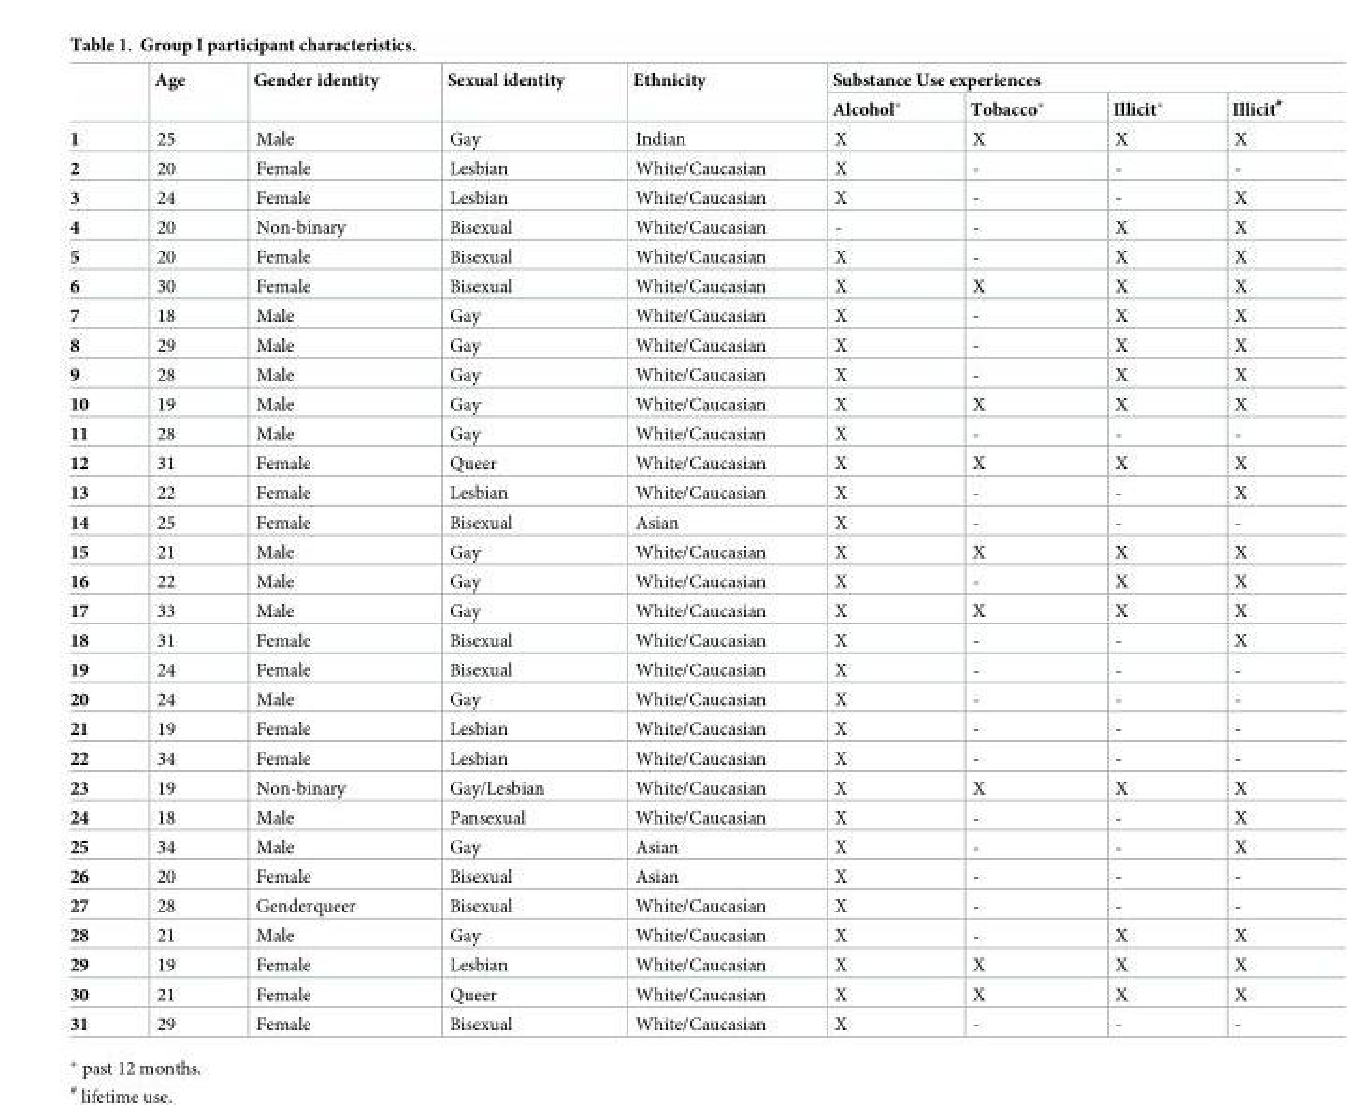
<table><thead><tr><td rowspan="2"></td><td rowspan="2">Age</td><td rowspan="2">Gender identity</td><td rowspan="2">Sexual identity</td><td rowspan="2">Ethnicity</td><td colspan="4">Substance Use experiences</td></tr><tr><td>Alcohol*</td><td>Tobacco*</td><td>Illicit*</td><td>Illicit<sup>#</sup></td></tr></thead><tbody><tr><td>1</td><td>25</td><td>Male</td><td>Gay</td><td>Indian</td><td>X</td><td>X</td><td>X</td><td>X</td></tr><tr><td>2</td><td>20</td><td>Female</td><td>Lesbian</td><td>White/Caucasian</td><td>X</td><td>-</td><td>-</td><td>-</td></tr><tr><td>3</td><td>24</td><td>Female</td><td>Lesbian</td><td>White/Caucasian</td><td>X</td><td>-</td><td>-</td><td>X</td></tr><tr><td>4</td><td>20</td><td>Non-binary</td><td>Bisexual</td><td>White/Caucasian</td><td>-</td><td>-</td><td>X</td><td>X</td></tr><tr><td>5</td><td>20</td><td>Female</td><td>Bisexual</td><td>White/Caucasian</td><td>X</td><td>-</td><td>X</td><td>X</td></tr><tr><td>6</td><td>30</td><td>Female</td><td>Bisexual</td><td>White/Caucasian</td><td>X</td><td>X</td><td>X</td><td>X</td></tr><tr><td>7</td><td>18</td><td>Male</td><td>Gay</td><td>White/Caucasian</td><td>X</td><td>-</td><td>X</td><td>X</td></tr><tr><td>8</td><td>29</td><td>Male</td><td>Gay</td><td>White/Caucasian</td><td>X</td><td>-</td><td>X</td><td>X</td></tr><tr><td>9</td><td>28</td><td>Male</td><td>Gay</td><td>White/Caucasian</td><td>X</td><td>-</td><td>X</td><td>X</td></tr><tr><td>10</td><td>19</td><td>Male</td><td>Gay</td><td>White/Caucasian</td><td>X</td><td>X</td><td>X</td><td>X</td></tr><tr><td>11</td><td>28</td><td>Male</td><td>Gay</td><td>White/Caucasian</td><td>X</td><td>-</td><td>-</td><td>-</td></tr><tr><td>12</td><td>31</td><td>Female</td><td>Queer</td><td>White/Caucasian</td><td>X</td><td>X</td><td>X</td><td>X</td></tr><tr><td>13</td><td>22</td><td>Female</td><td>Lesbian</td><td>White/Caucasian</td><td>X</td><td>-</td><td>-</td><td>X</td></tr><tr><td>14</td><td>25</td><td>Female</td><td>Bisexual</td><td>Asian</td><td>X</td><td>-</td><td>-</td><td>-</td></tr><tr><td>15</td><td>21</td><td>Male</td><td>Gay</td><td>White/Caucasian</td><td>X</td><td>X</td><td>X</td><td>X</td></tr><tr><td>16</td><td>22</td><td>Male</td><td>Gay</td><td>White/Caucasian</td><td>X</td><td>-</td><td>X</td><td>X</td></tr><tr><td>17</td><td>33</td><td>Male</td><td>Gay</td><td>White/Caucasian</td><td>X</td><td>X</td><td>X</td><td>X</td></tr><tr><td>18</td><td>31</td><td>Female</td><td>Bisexual</td><td>White/Caucasian</td><td>X</td><td>-</td><td>-</td><td>X</td></tr><tr><td>19</td><td>24</td><td>Female</td><td>Bisexual</td><td>White/Caucasian</td><td>X</td><td>-</td><td>-</td><td>-</td></tr><tr><td>20</td><td>24</td><td>Male</td><td>Gay</td><td>White/Caucasian</td><td>X</td><td>-</td><td>-</td><td>-</td></tr><tr><td>21</td><td>19</td><td>Female</td><td>Lesbian</td><td>White/Caucasian</td><td>X</td><td>-</td><td>-</td><td>-</td></tr><tr><td>22</td><td>34</td><td>Female</td><td>Lesbian</td><td>White/Caucasian</td><td>X</td><td>-</td><td>-</td><td>-</td></tr><tr><td>23</td><td>19</td><td>Non-binary</td><td>Gay/Lesbian</td><td>White/Caucasian</td><td>X</td><td>X</td><td>X</td><td>X</td></tr><tr><td>24</td><td>18</td><td>Male</td><td>Pansexual</td><td>White/Caucasian</td><td>X</td><td>-</td><td>-</td><td>X</td></tr><tr><td>25</td><td>34</td><td>Male</td><td>Gay</td><td>Asian</td><td>X</td><td>-</td><td>-</td><td>X</td></tr><tr><td>26</td><td>20</td><td>Female</td><td>Bisexual</td><td>Asian</td><td>X</td><td>-</td><td>-</td><td>-</td></tr><tr><td>27</td><td>28</td><td>Genderqueer</td><td>Bisexual</td><td>White/Caucasian</td><td>X</td><td>-</td><td>-</td><td>-</td></tr><tr><td>28</td><td>21</td><td>Male</td><td>Gay</td><td>White/Caucasian</td><td>X</td><td>-</td><td>X</td><td>X</td></tr><tr><td>29</td><td>19</td><td>Female</td><td>Lesbian</td><td>White/Caucasian</td><td>X</td><td>X</td><td>X</td><td>X</td></tr><tr><td>30</td><td>21</td><td>Female</td><td>Queer</td><td>White/Caucasian</td><td>X</td><td>X</td><td>X</td><td>X</td></tr><tr><td>31</td><td>29</td><td>Female</td><td>Bisexual</td><td>White/Caucasian</td><td>X</td><td>-</td><td>-</td><td>-</td></tr></tbody></table>